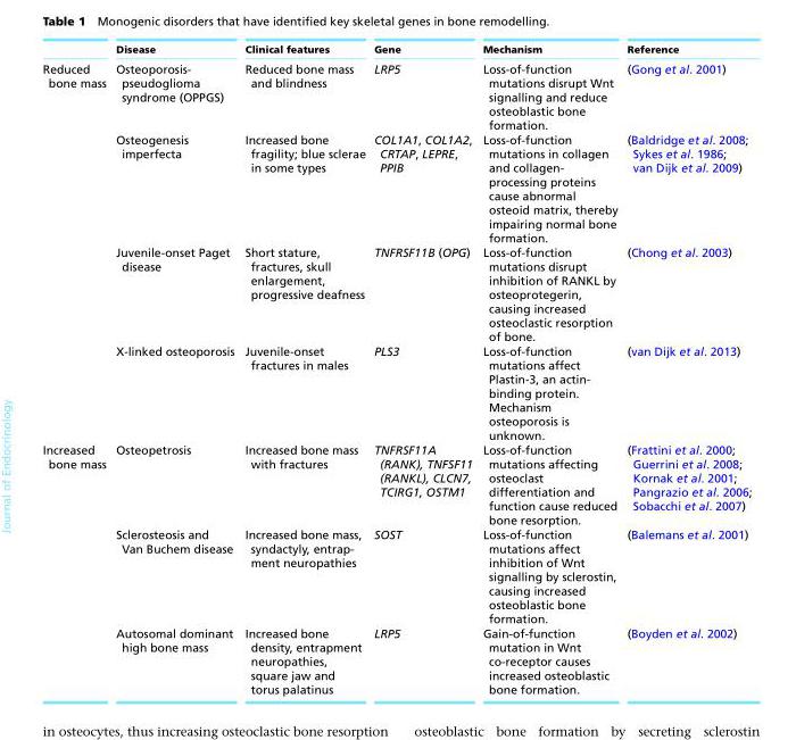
<table><thead><tr><td></td><td>Disease</td><td>Clinical features</td><td>Gene</td><td>Mechanism</td><td>Reference</td></tr></thead><tbody><tr><td rowspan="4">Reduced bone mass</td><td>Osteoporosis- pseudoglioma syndrome (OPPGS)</td><td>Reduced bone mass and blindness</td><td>LRP5</td><td>Loss-of-function mutations disrupt Wnt signalling and reduce osteoblastic bone formation.</td><td>(Gong et al. 2001)</td></tr><tr><td>Osteogenesis imperfecta</td><td>Increased bone fragility; blue sclerae in some types</td><td>COL1A1, COL1A2, CRTAP, LEPRE, PPIB</td><td>Loss-of-function mutations in collagen and collagen- processing proteins cause abnormal osteoid matrix, thereby impairing normal bone formation.</td><td>(Baldridge et al. 2008; Sykes et al. 1986; van Dijk et al. 2009)</td></tr><tr><td>Juvenile-onset Paget disease</td><td>Short stature, fractures, skull enlargement, progressive deafness</td><td>TNFRSF11B (OPG)</td><td>Loss-of-function mutations disrupt inhibition of RANKL by osteoprotegerin, causing increased osteoclastic resorption of bone.</td><td>(Chong et al. 2003)</td></tr><tr><td>X-linked osteoporosis</td><td>Juvenile-onset fractures in males</td><td>PLS3</td><td>Loss-of-function mutations affect Plastin-3, an actin- binding protein. Mechanism osteoporosis is unknown.</td><td>(van Dijk et al. 2013)</td></tr><tr><td rowspan="3">Increased bone mass</td><td>Osteopetrosis</td><td>Increased bone mass with fractures</td><td>TNFRSF11A (RANK), TNFSF11 (RANKL), CLCN7, TCIRG1, OSTM1</td><td>Loss-of-function mutations affecting osteoclast differentiation and function cause reduced bone resorption.</td><td>(Frattini et al. 2000; Guerrini et al. 2008; Kornak et al. 2001; Pangrazio et al. 2006; Sobacchi et al. 2007)</td></tr><tr><td>Sclerosteosis and Van Buchem disease</td><td>Increased bone mass, syndactyly, entrap- ment neuropathies</td><td>SOST</td><td>Loss-of-function mutations affect inhibition of Wnt signalling by sclerostin, causing increased osteoblastic bone formation.</td><td>(Balemans et al. 2001)</td></tr><tr><td>Autosomal dominant high bone mass</td><td>Increased bone density, entrapment neuropathies, square jaw and torus palatinus</td><td>LRP5</td><td>Gain-of-function mutation in Wnt co-receptor causes increased osteoblastic bone formation.</td><td>(Boyden et al. 2002)</td></tr></tbody></table>